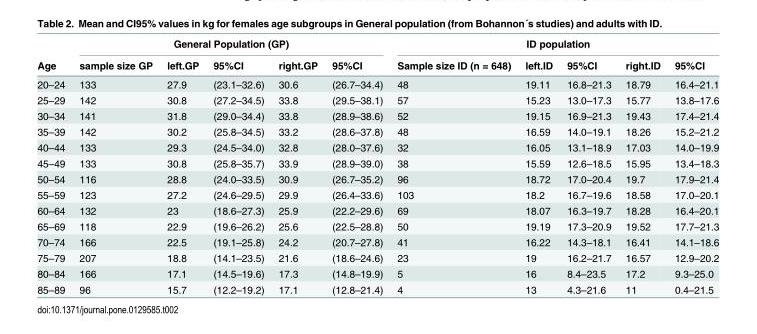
<table><thead><tr><td rowspan="2">Age</td><td colspan="5">General Population (GP)</td><td colspan="5">ID population</td></tr><tr><td>sample size GP</td><td>left.GP</td><td>95%CI</td><td>right.GP</td><td>95%CI</td><td>Sample size ID (n = 648)</td><td>left.ID</td><td>95%CI</td><td>right.ID</td><td>95%CI</td></tr></thead><tbody><tr><td>20–24</td><td>133</td><td>27.9</td><td>(23.1–32.6)</td><td>30.6</td><td>(26.7–34.4)</td><td>48</td><td>19.11</td><td>16.8–21.3</td><td>18.79</td><td>16.4–21.1</td></tr><tr><td>25–29</td><td>142</td><td>30.8</td><td>(27.2–34.5)</td><td>33.8</td><td>(29.5–38.1)</td><td>57</td><td>15.23</td><td>13.0–17.3</td><td>15.77</td><td>13.8–17.6</td></tr><tr><td>30–34</td><td>141</td><td>31.8</td><td>(29.0–34.4)</td><td>33.8</td><td>(28.9–38.6)</td><td>52</td><td>19.15</td><td>16.9–21.3</td><td>19.43</td><td>17.4–21.4</td></tr><tr><td>35–39</td><td>142</td><td>30.2</td><td>(25.8–34.5)</td><td>33.2</td><td>(28.6–37.8)</td><td>48</td><td>16.59</td><td>14.0–19.1</td><td>18.26</td><td>15.2–21.2</td></tr><tr><td>40–44</td><td>133</td><td>29.3</td><td>(24.5–34.0)</td><td>32.8</td><td>(28.0–37.6)</td><td>32</td><td>16.05</td><td>13.1–18.9</td><td>17.03</td><td>14.0–19.9</td></tr><tr><td>45–49</td><td>133</td><td>30.8</td><td>(25.8–35.7)</td><td>33.9</td><td>(28.9–39.0)</td><td>38</td><td>15.59</td><td>12.6–18.5</td><td>15.95</td><td>13.4–18.3</td></tr><tr><td>50–54</td><td>116</td><td>28.8</td><td>(24.0–33.5)</td><td>30.9</td><td>(26.7–35.2)</td><td>96</td><td>18.72</td><td>17.0–20.4</td><td>19.7</td><td>17.9–21.4</td></tr><tr><td>55–59</td><td>123</td><td>27.2</td><td>(24.6–29.5)</td><td>29.9</td><td>(26.4–33.6)</td><td>103</td><td>18.2</td><td>16.7–19.6</td><td>18.58</td><td>17.0–20.1</td></tr><tr><td>60–64</td><td>132</td><td>23</td><td>(18.6–27.3)</td><td>25.9</td><td>(22.2–29.6)</td><td>69</td><td>18.07</td><td>16.3–19.7</td><td>18.28</td><td>16.4–20.1</td></tr><tr><td>65–69</td><td>118</td><td>22.9</td><td>(19.6–26.2)</td><td>25.6</td><td>(22.5–28.8)</td><td>50</td><td>19.19</td><td>17.3–20.9</td><td>19.52</td><td>17.7–21.3</td></tr><tr><td>70–74</td><td>166</td><td>22.5</td><td>(19.1–25.8)</td><td>24.2</td><td>(20.7–27.8)</td><td>41</td><td>16.22</td><td>14.3–18.1</td><td>16.41</td><td>14.1–18.6</td></tr><tr><td>75–79</td><td>207</td><td>18.8</td><td>(14.1–23.5)</td><td>21.6</td><td>(18.6–24.6)</td><td>23</td><td>19</td><td>16.2–21.7</td><td>16.57</td><td>12.9–20.2</td></tr><tr><td>80–84</td><td>166</td><td>17.1</td><td>(14.5–19.6)</td><td>17.3</td><td>(14.8–19.9)</td><td>5</td><td>16</td><td>8.4–23.5</td><td>17.2</td><td>9.3–25.0</td></tr><tr><td>85–89</td><td>96</td><td>15.7</td><td>(12.2–19.2)</td><td>17.1</td><td>(12.8–21.4)</td><td>4</td><td>13</td><td>4.3–21.6</td><td>11</td><td>0.4–21.5</td></tr></tbody></table>